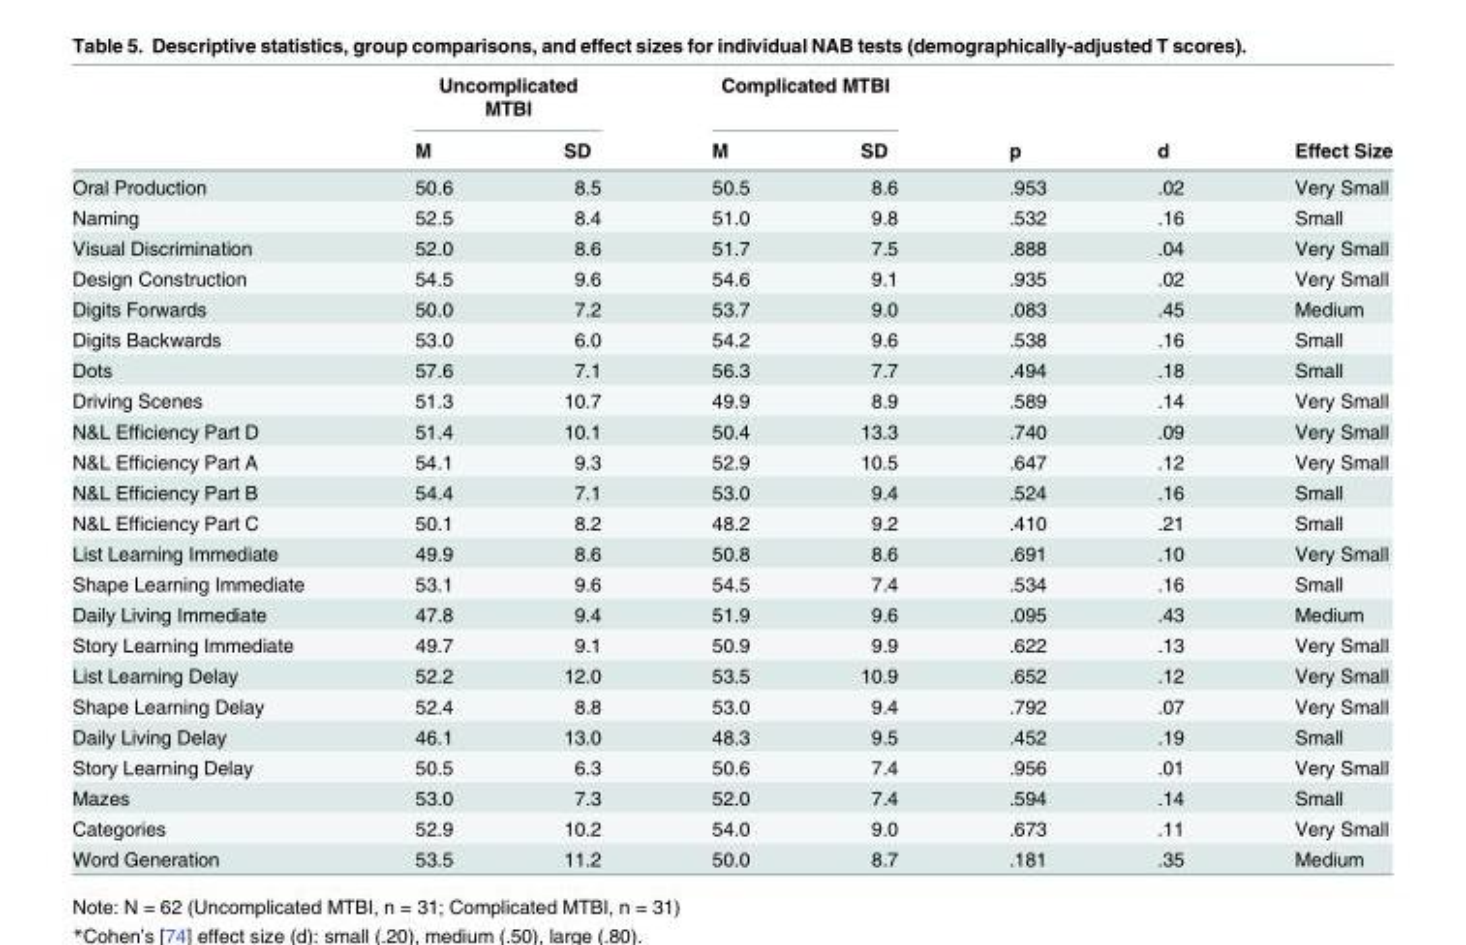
<table><thead><tr><td rowspan="2"></td><td colspan="2">Uncomplicated MTBI</td><td colspan="2">Complicated MTBI</td><td rowspan="2">p</td><td rowspan="2">d</td><td rowspan="2">Effect Size</td></tr><tr><td>M</td><td>SD</td><td>M</td><td>SD</td></tr></thead><tbody><tr><td>Oral Production</td><td>50.6</td><td>8.5</td><td>50.5</td><td>8.6</td><td>.953</td><td>.02</td><td>Very Small</td></tr><tr><td>Naming</td><td>52.5</td><td>8.4</td><td>51.0</td><td>9.8</td><td>.532</td><td>.16</td><td>Small</td></tr><tr><td>Visual Discrimination</td><td>52.0</td><td>8.6</td><td>51.7</td><td>7.5</td><td>.888</td><td>.04</td><td>Very Small</td></tr><tr><td>Design Construction</td><td>54.5</td><td>9.6</td><td>54.6</td><td>9.1</td><td>.935</td><td>.02</td><td>Very Small</td></tr><tr><td>Digits Forwards</td><td>50.0</td><td>7.2</td><td>53.7</td><td>9.0</td><td>.083</td><td>.45</td><td>Medium</td></tr><tr><td>Digits Backwards</td><td>53.0</td><td>6.0</td><td>54.2</td><td>9.6</td><td>.538</td><td>.16</td><td>Small</td></tr><tr><td>Dots</td><td>57.6</td><td>7.1</td><td>56.3</td><td>7.7</td><td>.494</td><td>.18</td><td>Small</td></tr><tr><td>Driving Scenes</td><td>51.3</td><td>10.7</td><td>49.9</td><td>8.9</td><td>.589</td><td>.14</td><td>Very Small</td></tr><tr><td>N&amp;L Efficiency Part D</td><td>51.4</td><td>10.1</td><td>50.4</td><td>13.3</td><td>.740</td><td>.09</td><td>Very Small</td></tr><tr><td>N&amp;L Efficiency Part A</td><td>54.1</td><td>9.3</td><td>52.9</td><td>10.5</td><td>.647</td><td>.12</td><td>Very Small</td></tr><tr><td>N&amp;L Efficiency Part B</td><td>54.4</td><td>7.1</td><td>53.0</td><td>9.4</td><td>.524</td><td>.16</td><td>Small</td></tr><tr><td>N&amp;L Efficiency Part C</td><td>50.1</td><td>8.2</td><td>48.2</td><td>9.2</td><td>.410</td><td>.21</td><td>Small</td></tr><tr><td>List Learning Immediate</td><td>49.9</td><td>8.6</td><td>50.8</td><td>8.6</td><td>.691</td><td>.10</td><td>Very Small</td></tr><tr><td>Shape Learning Immediate</td><td>53.1</td><td>9.6</td><td>54.5</td><td>7.4</td><td>.534</td><td>.16</td><td>Small</td></tr><tr><td>Daily Living Immediate</td><td>47.8</td><td>9.4</td><td>51.9</td><td>9.6</td><td>.095</td><td>.43</td><td>Medium</td></tr><tr><td>Story Learning Immediate</td><td>49.7</td><td>9.1</td><td>50.9</td><td>9.9</td><td>.622</td><td>.13</td><td>Very Small</td></tr><tr><td>List Learning Delay</td><td>52.2</td><td>12.0</td><td>53.5</td><td>10.9</td><td>.652</td><td>.12</td><td>Very Small</td></tr><tr><td>Shape Learning Delay</td><td>52.4</td><td>8.8</td><td>53.0</td><td>9.4</td><td>.792</td><td>.07</td><td>Very Small</td></tr><tr><td>Daily Living Delay</td><td>46.1</td><td>13.0</td><td>48.3</td><td>9.5</td><td>.452</td><td>.19</td><td>Small</td></tr><tr><td>Story Learning Delay</td><td>50.5</td><td>6.3</td><td>50.6</td><td>7.4</td><td>.956</td><td>.01</td><td>Very Small</td></tr><tr><td>Mazes</td><td>53.0</td><td>7.3</td><td>52.0</td><td>7.4</td><td>.594</td><td>.14</td><td>Small</td></tr><tr><td>Categories</td><td>52.9</td><td>10.2</td><td>54.0</td><td>9.0</td><td>.673</td><td>.11</td><td>Very Small</td></tr><tr><td>Word Generation</td><td>53.5</td><td>11.2</td><td>50.0</td><td>8.7</td><td>.181</td><td>.35</td><td>Medium</td></tr></tbody></table>